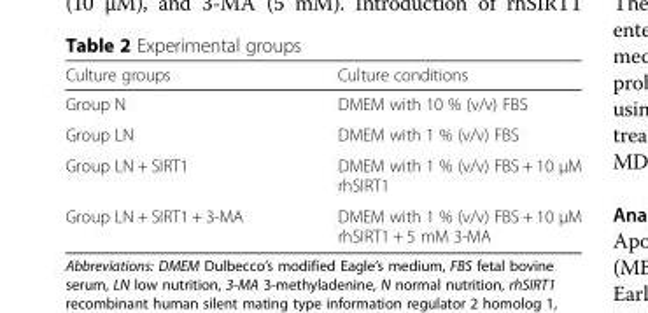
<table><thead><tr><td>Culture groups</td><td>Culture conditions</td></tr></thead><tbody><tr><td>Group N</td><td>DMEM with 10 % (v/v) FBS</td></tr><tr><td>Group LN</td><td>DMEM with 1 % (v/v) FBS</td></tr><tr><td>Group LN + SIRT1</td><td>DMEM with 1 % (v/v) FBS + 10 μM rhSIRT1</td></tr><tr><td>Group LN + SIRT1 + 3-MA</td><td>DMEM with 1 % (v/v) FBS + 10 μM rhSIRT1 + 5 mM 3-MA</td></tr></tbody></table>